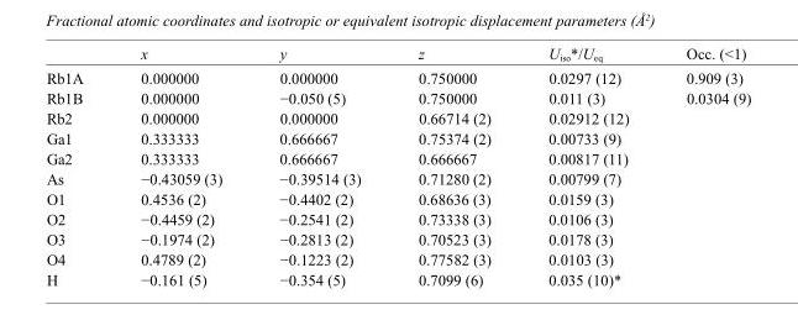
<table><thead><tr><td></td><td>x</td><td>y</td><td>z</td><td>U<sub>iso</sub>*/U<sub>eq</sub></td><td>Occ. (&lt;1)</td></tr></thead><tbody><tr><td>Rb1A</td><td>0.000000</td><td>0.000000</td><td>0.750000</td><td>0.0297 (12)</td><td>0.909 (3)</td></tr><tr><td>Rb1B</td><td>0.000000</td><td>−0.050 (5)</td><td>0.750000</td><td>0.011 (3)</td><td>0.0304 (9)</td></tr><tr><td>Rb2</td><td>0.000000</td><td>0.000000</td><td>0.66714 (2)</td><td>0.02912 (12)</td><td></td></tr><tr><td>Ga1</td><td>0.333333</td><td>0.666667</td><td>0.75374 (2)</td><td>0.00733 (9)</td><td></td></tr><tr><td>Ga2</td><td>0.333333</td><td>0.666667</td><td>0.666667</td><td>0.00817 (11)</td><td></td></tr><tr><td>As</td><td>−0.43059 (3)</td><td>−0.39514 (3)</td><td>0.71280 (2)</td><td>0.00799 (7)</td><td></td></tr><tr><td>O1</td><td>0.4536 (2)</td><td>−0.4402 (2)</td><td>0.68636 (3)</td><td>0.0159 (3)</td><td></td></tr><tr><td>O2</td><td>−0.4459 (2)</td><td>−0.2541 (2)</td><td>0.73338 (3)</td><td>0.0106 (3)</td><td></td></tr><tr><td>O3</td><td>−0.1974 (2)</td><td>−0.2813 (2)</td><td>0.70523 (3)</td><td>0.0178 (3)</td><td></td></tr><tr><td>O4</td><td>0.4789 (2)</td><td>−0.1223 (2)</td><td>0.77582 (3)</td><td>0.0103 (3)</td><td></td></tr><tr><td>H</td><td>−0.161 (5)</td><td>−0.354 (5)</td><td>0.7099 (6)</td><td>0.035 (10)*</td><td></td></tr></tbody></table>